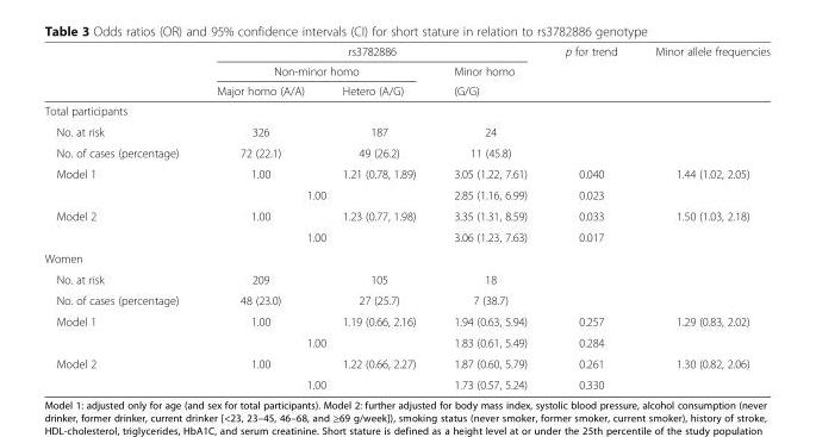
<table><thead><tr><td rowspan="3"></td><td colspan="3">rs3782886</td><td rowspan="3">p for trend</td><td rowspan="3">Minor allele frequencies</td></tr><tr><td colspan="2">Non-minor homo</td><td rowspan="2">Minor homo (G/G)</td></tr><tr><td>Major homo (A/A)</td><td>Hetero (A/G)</td></tr></thead><tbody><tr><td colspan="6">Total participants</td></tr><tr><td>No. at risk</td><td>326</td><td>187</td><td>24</td><td></td><td></td></tr><tr><td>No. of cases (percentage)</td><td>72 (22.1)</td><td>49 (26.2)</td><td>11 (45.8)</td><td></td><td></td></tr><tr><td rowspan="2">Model 1</td><td>1.00</td><td>1.21 (0.78, 1.89)</td><td>3.05 (1.22, 7.61)</td><td>0.040</td><td>1.44 (1.02, 2.05)</td></tr><tr><td colspan="2">1.00</td><td>2.85 (1.16, 6.99)</td><td>0.023</td><td></td></tr><tr><td rowspan="2">Model 2</td><td>1.00</td><td>1.23 (0.77, 1.98)</td><td>3.35 (1.31, 8.59)</td><td>0.033</td><td>1.50 (1.03, 2.18)</td></tr><tr><td colspan="2">1.00</td><td>3.06 (1.23, 7.63)</td><td>0.017</td><td></td></tr><tr><td colspan="6">Women</td></tr><tr><td>No. at risk</td><td>209</td><td>105</td><td>18</td><td></td><td></td></tr><tr><td>No. of cases (percentage)</td><td>48 (23.0)</td><td>27 (25.7)</td><td>7 (38.7)</td><td></td><td></td></tr><tr><td rowspan="2">Model 1</td><td>1.00</td><td>1.19 (0.66, 2.16)</td><td>1.94 (0.63, 5.94)</td><td>0.257</td><td>1.29 (0.83, 2.02)</td></tr><tr><td colspan="2">1.00</td><td>1.83 (0.61, 5.49)</td><td>0.284</td><td></td></tr><tr><td rowspan="2">Model 2</td><td>1.00</td><td>1.22 (0.66, 2.27)</td><td>1.87 (0.60, 5.79)</td><td>0.261</td><td>1.30 (0.82, 2.06)</td></tr><tr><td colspan="2">1.00</td><td>1.73 (0.57, 5.24)</td><td>0.330</td><td></td></tr></tbody></table>